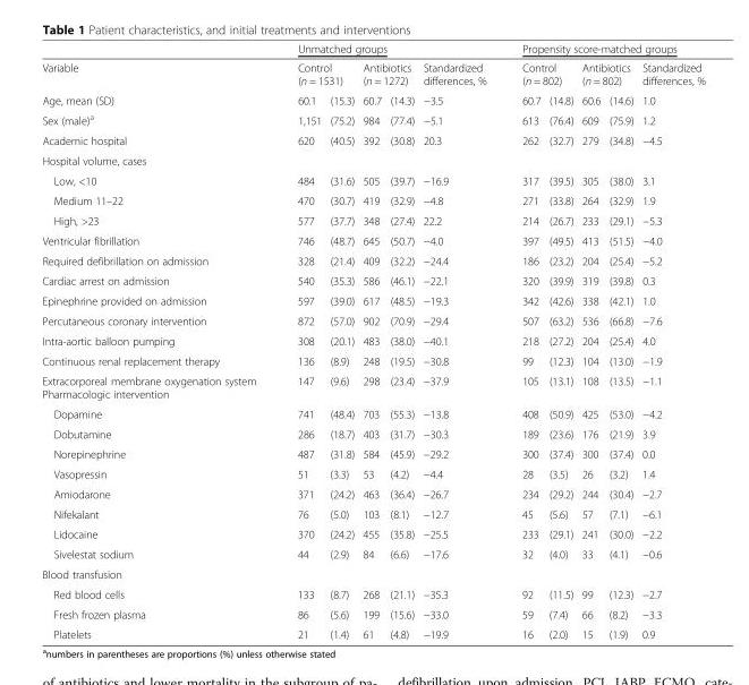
<table><thead><tr><td rowspan="3">Variable Age, mean (SD)</td><td colspan="5">Unmatched groups</td><td colspan="5">Propensity score-matched groups</td></tr><tr><td colspan="2">Control (n = 1531)</td><td colspan="2">Antibiotics (n = 1272)</td><td rowspan="2">Standardized differences, % −3.5</td><td colspan="2">Control (n = 802)</td><td colspan="2">Antibiotics (n = 802)</td><td rowspan="2">Standardized differences, % 1.0</td></tr><tr><td>60.1</td><td>(15.3)</td><td>60.7</td><td>(14.3)</td><td>60.7</td><td>(14.8)</td><td>60.6</td><td>(14.6)</td></tr></thead><tbody><tr><td>Sex (male)<sup>a</sup></td><td>1,151</td><td>(75.2)</td><td>984</td><td>(77.4)</td><td>−5.1</td><td>613</td><td>(76.4)</td><td>609</td><td>(75.9)</td><td>1.2</td></tr><tr><td>Academic hospital</td><td>620</td><td>(40.5)</td><td>392</td><td>(30.8)</td><td>20.3</td><td>262</td><td>(32.7)</td><td>279</td><td>(34.8)</td><td>−4.5</td></tr><tr><td colspan="11">Hospital volume, cases</td></tr><tr><td>Low, &lt;10</td><td>484</td><td>(31.6)</td><td>505</td><td>(39.7)</td><td>−16.9</td><td>317</td><td>(39.5)</td><td>305</td><td>(38.0)</td><td>3.1</td></tr><tr><td>Medium 11–22</td><td>470</td><td>(30.7)</td><td>419</td><td>(32.9)</td><td>−4.8</td><td>271</td><td>(33.8)</td><td>264</td><td>(32.9)</td><td>1.9</td></tr><tr><td>High, &gt;23</td><td>577</td><td>(37.7)</td><td>348</td><td>(27.4)</td><td>22.2</td><td>214</td><td>(26.7)</td><td>233</td><td>(29.1)</td><td>−5.3</td></tr><tr><td>Ventricular fibrillation</td><td>746</td><td>(48.7)</td><td>645</td><td>(50.7)</td><td>−4.0</td><td>397</td><td>(49.5)</td><td>413</td><td>(51.5)</td><td>−4.0</td></tr><tr><td>Required defibrillation on admission</td><td>328</td><td>(21.4)</td><td>409</td><td>(32.2)</td><td>−24.4</td><td>186</td><td>(23.2)</td><td>204</td><td>(25.4)</td><td>−5.2</td></tr><tr><td>Cardiac arrest on admission</td><td>540</td><td>(35.3)</td><td>586</td><td>(46.1)</td><td>−22.1</td><td>320</td><td>(39.9)</td><td>319</td><td>(39.8)</td><td>0.3</td></tr><tr><td>Epinephrine provided on admission</td><td>597</td><td>(39.0)</td><td>617</td><td>(48.5)</td><td>−19.3</td><td>342</td><td>(42.6)</td><td>338</td><td>(42.1)</td><td>1.0</td></tr><tr><td>Percutaneous coronary intervention</td><td>872</td><td>(57.0)</td><td>902</td><td>(70.9)</td><td>−29.4</td><td>507</td><td>(63.2)</td><td>536</td><td>(66.8)</td><td>−7.6</td></tr><tr><td>Intra-aortic balloon pumping</td><td>308</td><td>(20.1)</td><td>483</td><td>(38.0)</td><td>−40.1</td><td>218</td><td>(27.2)</td><td>204</td><td>(25.4)</td><td>4.0</td></tr><tr><td>Continuous renal replacement therapy</td><td>136</td><td>(8.9)</td><td>248</td><td>(19.5)</td><td>−30.8</td><td>99</td><td>(12.3)</td><td>104</td><td>(13.0)</td><td>−1.9</td></tr><tr><td>Extracorporeal membrane oxygenation system Pharmacologic intervention</td><td>147</td><td>(9.6)</td><td>298</td><td>(23.4)</td><td>−37.9</td><td>105</td><td>(13.1)</td><td>108</td><td>(13.5)</td><td>−1.1</td></tr><tr><td>Dopamine</td><td>741</td><td>(48.4)</td><td>703</td><td>(55.3)</td><td>−13.8</td><td>408</td><td>(50.9)</td><td>425</td><td>(53.0)</td><td>−4.2</td></tr><tr><td>Dobutamine</td><td>286</td><td>(18.7)</td><td>403</td><td>(31.7)</td><td>−30.3</td><td>189</td><td>(23.6)</td><td>176</td><td>(21.9)</td><td>3.9</td></tr><tr><td>Norepinephrine</td><td>487</td><td>(31.8)</td><td>584</td><td>(45.9)</td><td>−29.2</td><td>300</td><td>(37.4)</td><td>300</td><td>(37.4)</td><td>0.0</td></tr><tr><td>Vasopressin</td><td>51</td><td>(3.3)</td><td>53</td><td>(4.2)</td><td>−4.4</td><td>28</td><td>(3.5)</td><td>26</td><td>(3.2)</td><td>1.4</td></tr><tr><td>Amiodarone</td><td>371</td><td>(24.2)</td><td>463</td><td>(36.4)</td><td>−26.7</td><td>234</td><td>(29.2)</td><td>244</td><td>(30.4)</td><td>−2.7</td></tr><tr><td>Nifekalant</td><td>76</td><td>(5.0)</td><td>103</td><td>(8.1)</td><td>−12.7</td><td>45</td><td>(5.6)</td><td>57</td><td>(7.1)</td><td>−6.1</td></tr><tr><td>Lidocaine</td><td>370</td><td>(24.2)</td><td>455</td><td>(35.8)</td><td>−25.5</td><td>233</td><td>(29.1)</td><td>241</td><td>(30.0)</td><td>−2.2</td></tr><tr><td>Sivelestat sodium</td><td>44</td><td>(2.9)</td><td>84</td><td>(6.6)</td><td>−17.6</td><td>32</td><td>(4.0)</td><td>33</td><td>(4.1)</td><td>−0.6</td></tr><tr><td colspan="11">Blood transfusion</td></tr><tr><td>Red blood cells</td><td>133</td><td>(8.7)</td><td>268</td><td>(21.1)</td><td>−35.3</td><td>92</td><td>(11.5)</td><td>99</td><td>(12.3)</td><td>−2.7</td></tr><tr><td>Fresh frozen plasma</td><td>86</td><td>(5.6)</td><td>199</td><td>(15.6)</td><td>−33.0</td><td>59</td><td>(7.4)</td><td>66</td><td>(8.2)</td><td>−3.3</td></tr><tr><td>Platelets</td><td>21</td><td>(1.4)</td><td>61</td><td>(4.8)</td><td>−19.9</td><td>16</td><td>(2.0)</td><td>15</td><td>(1.9)</td><td>0.9</td></tr></tbody></table>